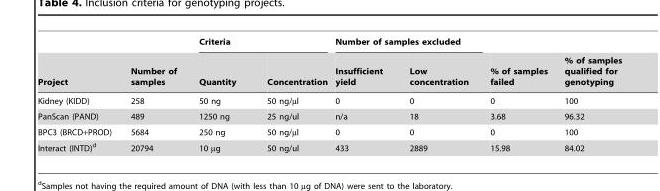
<table><thead><tr><td rowspan="2">Project</td><td rowspan="2">Number of samples</td><td colspan="2">Criteria</td><td colspan="2">Number of samples excluded</td><td rowspan="2">% of samples failed</td><td rowspan="2">% of samples qualified for genotyping</td></tr><tr><td>Quantity</td><td>Concentration</td><td>Insufficient yield</td><td>Low concentration</td></tr></thead><tbody><tr><td>Kidney (KIDD)</td><td>258</td><td>50 ng</td><td>50 ng/µl</td><td>0</td><td>0</td><td>0</td><td>100</td></tr><tr><td>PanScan (PAND)</td><td>489</td><td>1250 ng</td><td>25 ng/ul</td><td>n/a</td><td>18</td><td>3.68</td><td>96.32</td></tr><tr><td>BPC3 (BRCD+PROD)</td><td>5684</td><td>250 ng</td><td>50 ng/µl</td><td>0</td><td>0</td><td>0</td><td>100</td></tr><tr><td>Interact (INTD)<sup>d</sup></td><td>20794</td><td>10 µg</td><td>50 ng/ul</td><td>433</td><td>2889</td><td>15.98</td><td>84.02</td></tr></tbody></table>